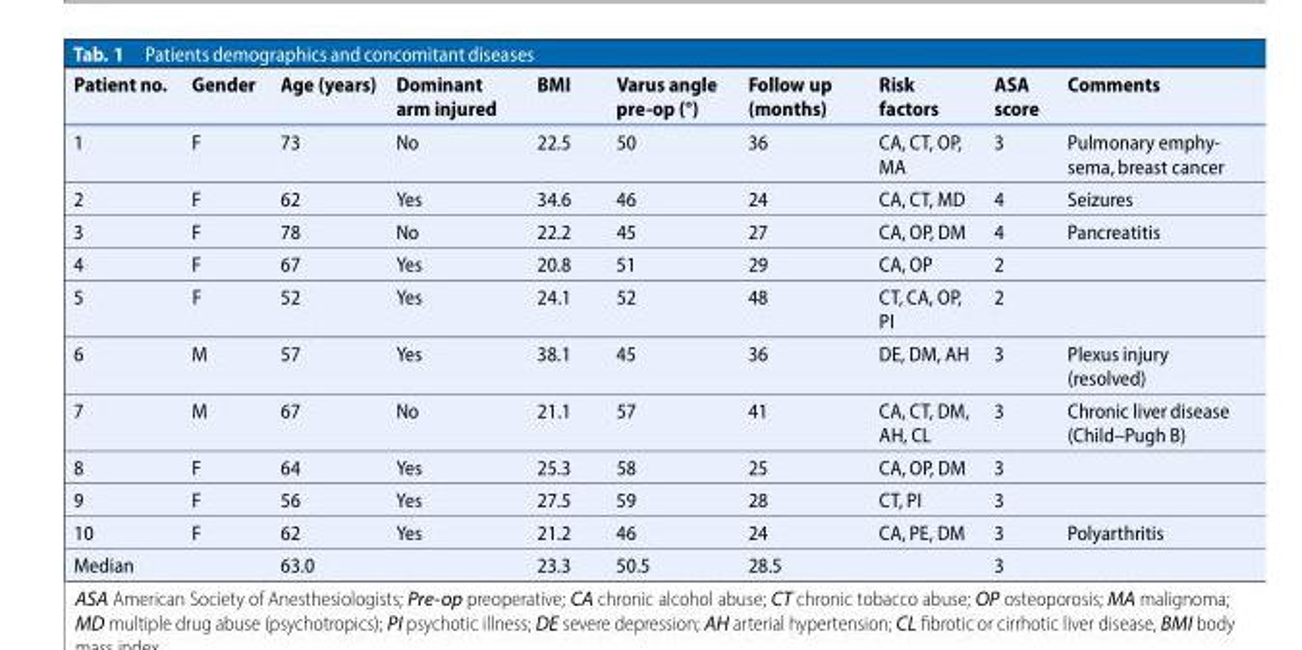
<table><thead><tr><td>Patient no.</td><td>Gender</td><td>Age (years)</td><td>Dominant arm injured</td><td>BMI</td><td>Varus angle pre-op (°)</td><td>Follow up (months)</td><td>Risk factors</td><td>ASA score</td><td>Comments</td></tr></thead><tbody><tr><td>1</td><td>F</td><td>73</td><td>No</td><td>22.5</td><td>50</td><td>36</td><td>CA, CT, OP, MA</td><td>3</td><td>Pulmonary emphy- sema, breast cancer</td></tr><tr><td>2</td><td>F</td><td>62</td><td>Yes</td><td>34.6</td><td>46</td><td>24</td><td>CA, CT, MD</td><td>4</td><td>Seizures</td></tr><tr><td>3</td><td>F</td><td>78</td><td>No</td><td>22.2</td><td>45</td><td>27</td><td>CA, OP, DM</td><td>4</td><td>Pancreatitis</td></tr><tr><td>4</td><td>F</td><td>67</td><td>Yes</td><td>20.8</td><td>51</td><td>29</td><td>CA, OP</td><td>2</td><td></td></tr><tr><td>5</td><td>F</td><td>52</td><td>Yes</td><td>24.1</td><td>52</td><td>48</td><td>CT, CA, OP, PI</td><td>2</td><td></td></tr><tr><td>6</td><td>M</td><td>57</td><td>Yes</td><td>38.1</td><td>45</td><td>36</td><td>DE, DM, AH</td><td>3</td><td>Plexus injury (resolved)</td></tr><tr><td>7</td><td>M</td><td>67</td><td>No</td><td>21.1</td><td>57</td><td>41</td><td>CA, CT, DM, AH, CL</td><td>3</td><td>Chronic liver disease (Child–Pugh B)</td></tr><tr><td>8</td><td>F</td><td>64</td><td>Yes</td><td>25.3</td><td>58</td><td>25</td><td>CA, OP, DM</td><td>3</td><td></td></tr><tr><td>9</td><td>F</td><td>56</td><td>Yes</td><td>27.5</td><td>59</td><td>28</td><td>CT, PI</td><td>3</td><td></td></tr><tr><td>10</td><td>F</td><td>62</td><td>Yes</td><td>21.2</td><td>46</td><td>24</td><td>CA, PE, DM</td><td>3</td><td>Polyarthritis</td></tr><tr><td>Median</td><td></td><td>63.0</td><td></td><td>23.3</td><td>50.5</td><td>28.5</td><td></td><td>3</td><td></td></tr></tbody></table>